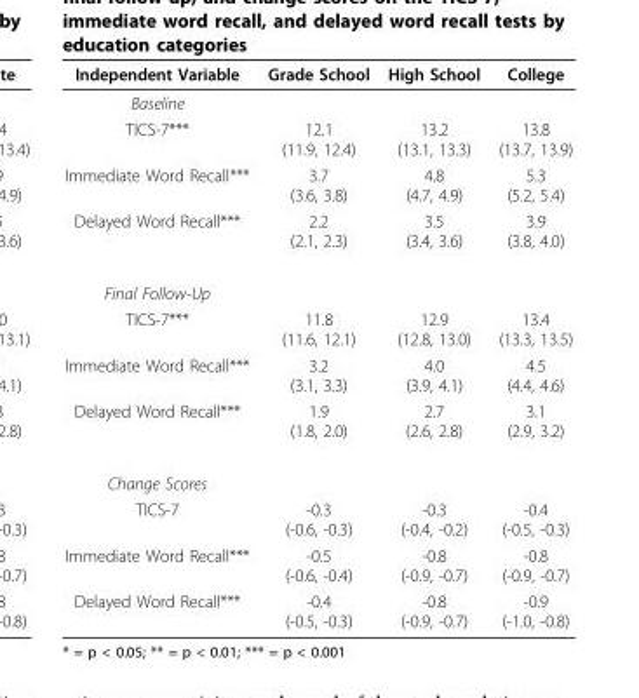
<table><thead><tr><td>Independent Variable</td><td>Grade School</td><td>High School</td><td>College</td></tr></thead><tbody><tr><td colspan="4">Baseline</td></tr><tr><td>TICS-7***</td><td>12.1 (11.9, 12.4)</td><td>13.2 (13.1, 13.3)</td><td>13.8 (13.7, 13.9)</td></tr><tr><td>Immediate Word Recall***</td><td>3.7 (3.6, 3.8)</td><td>4.8 (4.7, 4.9)</td><td>5.3 (5.2, 5.4)</td></tr><tr><td>Delayed Word Recall***</td><td>2.2 (2.1, 2.3)</td><td>3.5 (3.4, 3.6)</td><td>3.9 (3.8, 4.0)</td></tr><tr><td colspan="4">Final Follow-Up</td></tr><tr><td>TICS-7***</td><td>11.8 (11.6, 12.1)</td><td>12.9 (12.8, 13.0)</td><td>13.4 (13.3, 13.5)</td></tr><tr><td>Immediate Word Recall***</td><td>3.2 (3.1, 3.3)</td><td>4.0 (3.9, 4.1)</td><td>4.5 (4.4, 4.6)</td></tr><tr><td>Delayed Word Recall***</td><td>1.9 (1.8, 2.0)</td><td>2.7 (2.6, 2.8)</td><td>3.1 (2.9, 3.2)</td></tr><tr><td colspan="4">Change Scores</td></tr><tr><td>TICS-7</td><td>-0.3 (-0.6, -0.3)</td><td>-0.3 (-0.4, -0.2)</td><td>-0.4 (-0.5, -0.3)</td></tr><tr><td>Immediate Word Recall***</td><td>-0.5 (-0.6, -0.4)</td><td>-0.8 (-0.9, -0.7)</td><td>-0.8 (-0.9, -0.7)</td></tr><tr><td>Delayed Word Recall***</td><td>-0.4 (-0.5, -0.3)</td><td>-0.8 (-0.9, -0.7)</td><td>-0.9 (-1.0, -0.8)</td></tr></tbody></table>